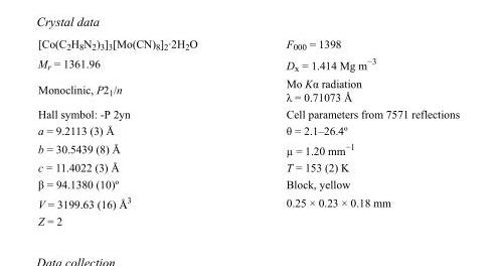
<table><tbody><tr><td>[Co(C<sub>2</sub>H<sub>8</sub>N<sub>2</sub>)<sub>3</sub>]<sub>3</sub>[Mo(CN)<sub>8</sub>]<sub>2</sub>·2H<sub>2</sub>O</td><td>F<sub>000</sub> = 1398</td></tr><tr><td>M<sub>r</sub> = 1361.96</td><td>D<sub>x</sub> = 1.414 Mg m<sup>−3</sup></td></tr><tr><td>Monoclinic, P2<sub>1</sub>/n</td><td>Mo Kα radiation λ = 0.71073 Å</td></tr><tr><td>Hall symbol: -P 2yn</td><td>Cell parameters from 7571 reflections</td></tr><tr><td>a = 9.2113 (3) Å</td><td>θ = 2.1–26.4º</td></tr><tr><td>b = 30.5439 (8) Å</td><td>µ = 1.20 mm<sup>−1</sup></td></tr><tr><td>c = 11.4022 (3) Å</td><td>T = 153 (2) K</td></tr><tr><td>β = 94.1380 (10)º</td><td>Block, yellow</td></tr><tr><td>V = 3199.63 (16) Å<sup>3</sup></td><td>0.25 × 0.23 × 0.18 mm</td></tr><tr><td>Z = 2</td><td></td></tr></tbody></table>